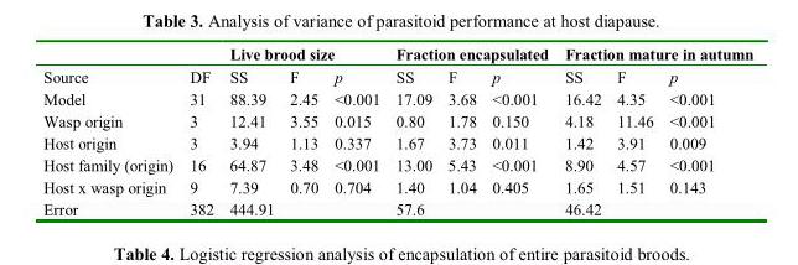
<table><thead><tr><td rowspan="2">Source</td><td rowspan="2">DF</td><td colspan="3">Live brood size</td><td colspan="3">Fraction encapsulated</td><td colspan="3">Fraction mature in autumn</td></tr><tr><td>SS</td><td>F</td><td>p</td><td>SS</td><td>F</td><td>p</td><td>SS</td><td>F</td><td>p</td></tr></thead><tbody><tr><td>Model</td><td>31</td><td>88.39</td><td>2.45</td><td>&lt;0.001</td><td>17.09</td><td>3.68</td><td>&lt;0.001</td><td>16.42</td><td>4.35</td><td>&lt;0.001</td></tr><tr><td>Wasp origin</td><td>3</td><td>12.41</td><td>3.55</td><td>0.015</td><td>0.80</td><td>1.78</td><td>0.150</td><td>4.18</td><td>11.46</td><td>&lt;0.001</td></tr><tr><td>Host origin</td><td>3</td><td>3.94</td><td>1.13</td><td>0.337</td><td>1.67</td><td>3.73</td><td>0.011</td><td>1.42</td><td>3.91</td><td>0.009</td></tr><tr><td>Host family (origin)</td><td>16</td><td>64.87</td><td>3.48</td><td>&lt;0.001</td><td>13.00</td><td>5.43</td><td>&lt;0.001</td><td>8.90</td><td>4.57</td><td>&lt;0.001</td></tr><tr><td>Host x wasp origin</td><td>9</td><td>7.39</td><td>0.70</td><td>0.704</td><td>1.40</td><td>1.04</td><td>0.405</td><td>1.65</td><td>1.51</td><td>0.143</td></tr><tr><td>Error</td><td>382</td><td>444.91</td><td></td><td></td><td>57.6</td><td></td><td></td><td>46.42</td><td></td><td></td></tr></tbody></table>